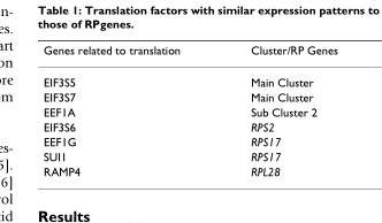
<table><thead><tr><td>Genes related to translation</td><td>Cluster/RP Genes</td></tr></thead><tbody><tr><td>EIF3S5</td><td>Main Cluster</td></tr><tr><td>EIF3S7</td><td>Main Cluster</td></tr><tr><td>EEF1A</td><td>Sub Cluster 2</td></tr><tr><td>EIF3S6</td><td>RPS2</td></tr><tr><td>EEF1G</td><td>RPS17</td></tr><tr><td>SUI1</td><td>RPS17</td></tr><tr><td>RAMP4</td><td>RPL28</td></tr></tbody></table>